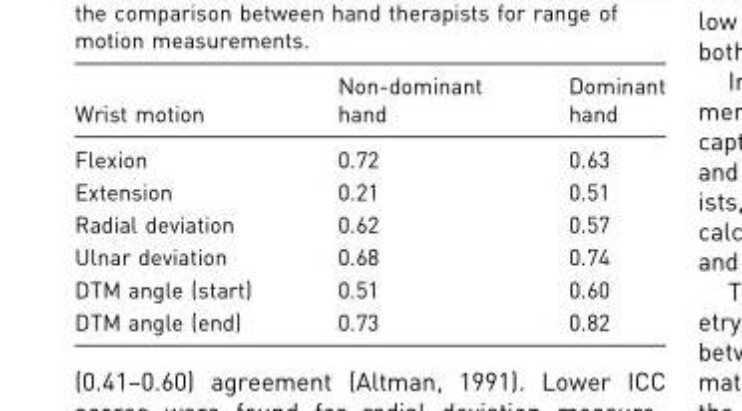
<table><thead><tr><td>Wrist motion</td><td>Non-dominant hand</td><td>Dominant hand</td></tr></thead><tbody><tr><td>Flexion</td><td>0.72</td><td>0.63</td></tr><tr><td>Extension</td><td>0.21</td><td>0.51</td></tr><tr><td>Radial deviation</td><td>0.62</td><td>0.57</td></tr><tr><td>Ulnar deviation</td><td>0.68</td><td>0.74</td></tr><tr><td>DTM angle (start)</td><td>0.51</td><td>0.60</td></tr><tr><td>DTM angle (end)</td><td>0.73</td><td>0.82</td></tr></tbody></table>